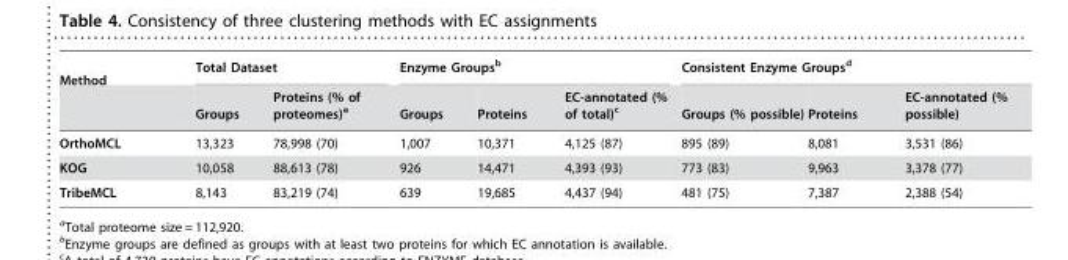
<table><thead><tr><td rowspan="2">Method</td><td colspan="2">Total Dataset</td><td colspan="3">Enzyme Groups<sup>b</sup></td><td colspan="3">Consistent Enzyme Groups<sup>d</sup></td></tr><tr><td>Groups</td><td>Proteins (% of proteomes)<sup>a</sup></td><td>Groups</td><td>Proteins</td><td>EC-annotated (% of total)<sup>c</sup></td><td>Groups (% possible)</td><td>Proteins</td><td>EC-annotated (% possible)</td></tr></thead><tbody><tr><td>OrthoMCL</td><td>13,323</td><td>78,998 (70)</td><td>1,007</td><td>10,371</td><td>4,125 (87)</td><td>895 (89)</td><td>8,081</td><td>3,531 (86)</td></tr><tr><td>KOG</td><td>10,058</td><td>88,613 (78)</td><td>926</td><td>14,471</td><td>4,393 (93)</td><td>773 (83)</td><td>9,963</td><td>3,378 (77)</td></tr><tr><td>TribeMCL</td><td>8,143</td><td>83,219 (74)</td><td>639</td><td>19,685</td><td>4,437 (94)</td><td>481 (75)</td><td>7,387</td><td>2,388 (54)</td></tr></tbody></table>